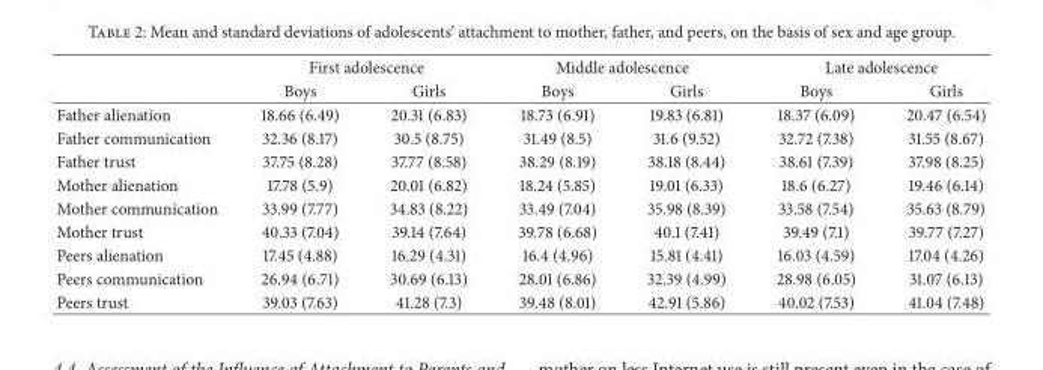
<table><thead><tr><td rowspan="2"></td><td colspan="2">First adolescence</td><td colspan="2">Middle adolescence</td><td colspan="2">Late adolescence</td></tr><tr><td>Boys</td><td>Girls</td><td>Boys</td><td>Girls</td><td>Boys</td><td>Girls</td></tr></thead><tbody><tr><td>Father alienation</td><td>18.66 (6.49)</td><td>20.31 (6.83)</td><td>18.73 (6.91)</td><td>19.83 (6.81)</td><td>18.37 (6.09)</td><td>20.47 (6.54)</td></tr><tr><td>Father communication</td><td>32.36 (8.17)</td><td>30.5 (8.75)</td><td>31.49 (8.5)</td><td>31.6 (9.52)</td><td>32.72 (7.38)</td><td>31.55 (8.67)</td></tr><tr><td>Father trust</td><td>37.75 (8.28)</td><td>37.77 (8.58)</td><td>38.29 (8.19)</td><td>38.18 (8.44)</td><td>38.61 (7.39)</td><td>37.98 (8.25)</td></tr><tr><td>Mother alienation</td><td>17.78 (5.9)</td><td>20.01 (6.82)</td><td>18.24 (5.85)</td><td>19.01 (6.33)</td><td>18.6 (6.27)</td><td>19.46 (6.14)</td></tr><tr><td>Mother communication</td><td>33.99 (7.77)</td><td>34.83 (8.22)</td><td>33.49 (7.04)</td><td>35.98 (8.39)</td><td>33.58 (7.54)</td><td>35.63 (8.79)</td></tr><tr><td>Mother trust</td><td>40.33 (7.04)</td><td>39.14 (7.64)</td><td>39.78 (6.68)</td><td>40.1 (7.41)</td><td>39.49 (7.1)</td><td>39.77 (7.27)</td></tr><tr><td>Peers alienation</td><td>17.45 (4.88)</td><td>16.29 (4.31)</td><td>16.4 (4.96)</td><td>15.81 (4.41)</td><td>16.03 (4.59)</td><td>17.04 (4.26)</td></tr><tr><td>Peers communication</td><td>26.94 (6.71)</td><td>30.69 (6.13)</td><td>28.01 (6.86)</td><td>32.39 (4.99)</td><td>28.98 (6.05)</td><td>31.07 (6.13)</td></tr><tr><td>Peers trust</td><td>39.03 (7.63)</td><td>41.28 (7.3)</td><td>39.48 (8.01)</td><td>42.91 (5.86)</td><td>40.02 (7.53)</td><td>41.04 (7.48)</td></tr></tbody></table>